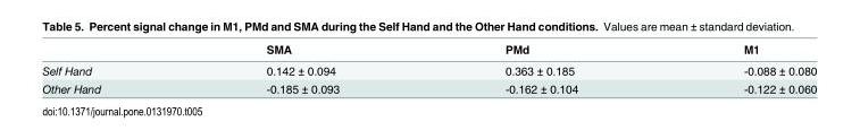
<table><thead><tr><td></td><td>SMA</td><td>PMd</td><td>M1</td></tr></thead><tbody><tr><td>Self Hand</td><td>0.142 ± 0.094</td><td>0.363 ± 0.185</td><td>-0.088 ± 0.080</td></tr><tr><td>Other Hand</td><td>-0.185 ± 0.093</td><td>-0.162 ± 0.104</td><td>-0.122 ± 0.060</td></tr></tbody></table>